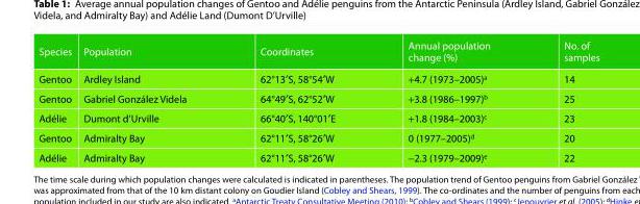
<table><thead><tr><td>Species</td><td>Population</td><td>Coordinates</td><td>Annual population change (%)</td><td>No. of samples</td></tr></thead><tbody><tr><td>Gentoo</td><td>Ardley Island</td><td>62°13′S, 58°54′W</td><td>+4.7 (1973–2005)<sup>a</sup></td><td>14</td></tr><tr><td>Gentoo</td><td>Gabriel González Videla</td><td>64°49′S, 62°52′W</td><td>+3.8 (1986–1997)<sup>b</sup></td><td>25</td></tr><tr><td>Adélie</td><td>Dumont d’Urville</td><td>66°40′S, 140°01′E</td><td>+1.8 (1984–2003)<sup>c</sup></td><td>23</td></tr><tr><td>Gentoo</td><td>Admiralty Bay</td><td>62°11′S, 58°26′W</td><td>0 (1977–2005)<sup>d</sup></td><td>20</td></tr><tr><td>Adélie</td><td>Admiralty Bay</td><td>62°11′S, 58°26′W</td><td>−2.3 (1979–2009)<sup>e</sup></td><td>22</td></tr></tbody></table>